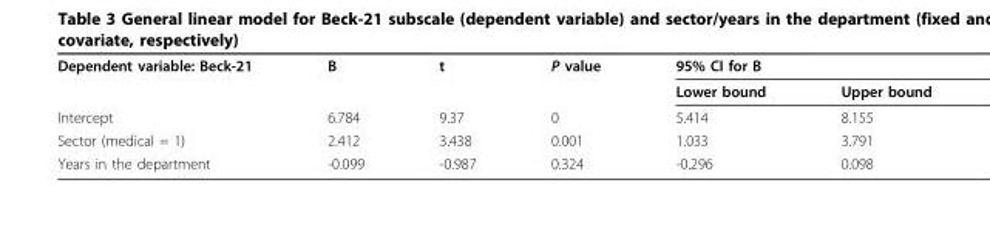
<table><tbody><tr><td rowspan="2">Dependent variable: Beck-21</td><td>B</td><td>t</td><td>P value</td><td colspan="2">95% CI for B</td></tr><tr><td></td><td></td><td></td><td>Lower bound</td><td>Upper bound</td></tr><tr><td>Intercept</td><td>6.784</td><td>9.37</td><td>0</td><td>5.414</td><td>8.155</td></tr><tr><td>Sector (medical = 1)</td><td>2.412</td><td>3.438</td><td>0.001</td><td>1.033</td><td>3.791</td></tr><tr><td>Years in the department</td><td>-0.099</td><td>-0.987</td><td>0.324</td><td>-0.296</td><td>0.098</td></tr></tbody></table>